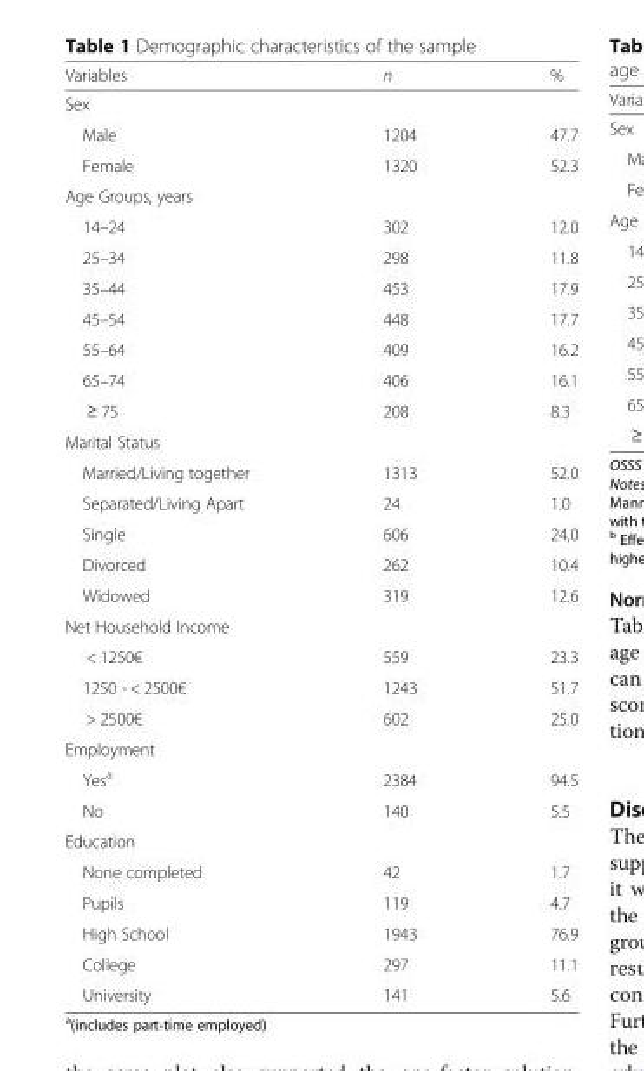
<table><thead><tr><td>Variables</td><td>n</td><td>%</td></tr></thead><tbody><tr><td colspan="3">Sex</td></tr><tr><td>Male</td><td>1204</td><td>47.7</td></tr><tr><td>Female</td><td>1320</td><td>52.3</td></tr><tr><td colspan="3">Age Groups, years</td></tr><tr><td>14–24</td><td>302</td><td>12.0</td></tr><tr><td>25–34</td><td>298</td><td>11.8</td></tr><tr><td>35–44</td><td>453</td><td>17.9</td></tr><tr><td>45–54</td><td>448</td><td>17.7</td></tr><tr><td>55–64</td><td>409</td><td>16.2</td></tr><tr><td>65–74</td><td>406</td><td>16.1</td></tr><tr><td>≥ 75</td><td>208</td><td>8.3</td></tr><tr><td colspan="3">Marital Status</td></tr><tr><td>Married/Living together</td><td>1313</td><td>52.0</td></tr><tr><td>Separated/Living Apart</td><td>24</td><td>1.0</td></tr><tr><td>Single</td><td>606</td><td>24,0</td></tr><tr><td>Divorced</td><td>262</td><td>10.4</td></tr><tr><td>Widowed</td><td>319</td><td>12.6</td></tr><tr><td colspan="3">Net Household Income</td></tr><tr><td>&lt; 1250€</td><td>559</td><td>23.3</td></tr><tr><td>1250 - &lt; 2500€</td><td>1243</td><td>51.7</td></tr><tr><td>&gt; 2500€</td><td>602</td><td>25.0</td></tr><tr><td colspan="3">Employment</td></tr><tr><td>Yes<sup>a</sup></td><td>2384</td><td>94.5</td></tr><tr><td>No</td><td>140</td><td>5.5</td></tr><tr><td colspan="3">Education</td></tr><tr><td>None completed</td><td>42</td><td>1.7</td></tr><tr><td>Pupils</td><td>119</td><td>4.7</td></tr><tr><td>High School</td><td>1943</td><td>76.9</td></tr><tr><td>College</td><td>297</td><td>11.1</td></tr><tr><td>University</td><td>141</td><td>5.6</td></tr></tbody></table>